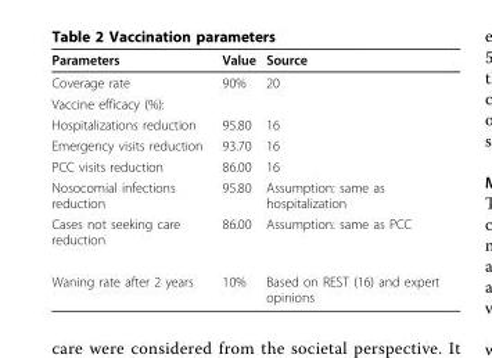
<table><thead><tr><td>Parameters</td><td>Value</td><td>Source</td></tr></thead><tbody><tr><td>Coverage rate</td><td>90%</td><td>20</td></tr><tr><td colspan="3">Vaccine efficacy (%):</td></tr><tr><td>Hospitalizations reduction</td><td>95.80</td><td>16</td></tr><tr><td>Emergency visits reduction</td><td>93.70</td><td>16</td></tr><tr><td>PCC visits reduction</td><td>86.00</td><td>16</td></tr><tr><td>Nosocomial infections reduction</td><td>95.80</td><td>Assumption: same as hospitalization</td></tr><tr><td>Cases not seeking care reduction</td><td>86.00</td><td>Assumption: same as PCC</td></tr><tr><td>Waning rate after 2 years</td><td>10%</td><td>Based on REST (16) and expert opinions</td></tr></tbody></table>